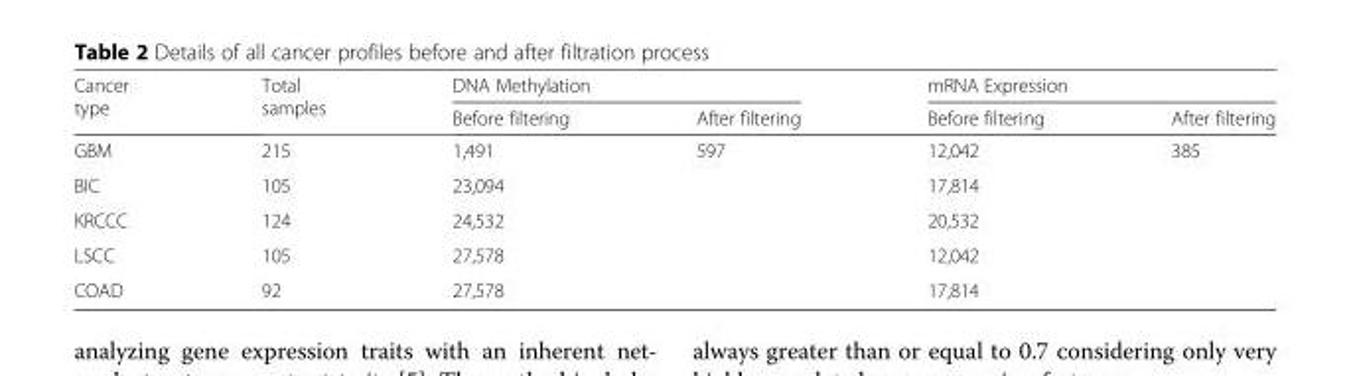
<table><thead><tr><td rowspan="2">Cancer type</td><td rowspan="2">Total samples</td><td colspan="2">DNA Methylation</td><td colspan="2">mRNA Expression</td></tr><tr><td>Before filtering</td><td>After filtering</td><td>Before filtering</td><td>After filtering</td></tr></thead><tbody><tr><td>GBM</td><td>215</td><td>1,491</td><td rowspan="5">597</td><td>12,042</td><td rowspan="5">385</td></tr><tr><td>BIC</td><td>105</td><td>23,094</td><td>17,814</td></tr><tr><td>KRCCC</td><td>124</td><td>24,532</td><td>20,532</td></tr><tr><td>LSCC</td><td>105</td><td>27,578</td><td>12,042</td></tr><tr><td>COAD</td><td>92</td><td>27,578</td><td>17,814</td></tr></tbody></table>